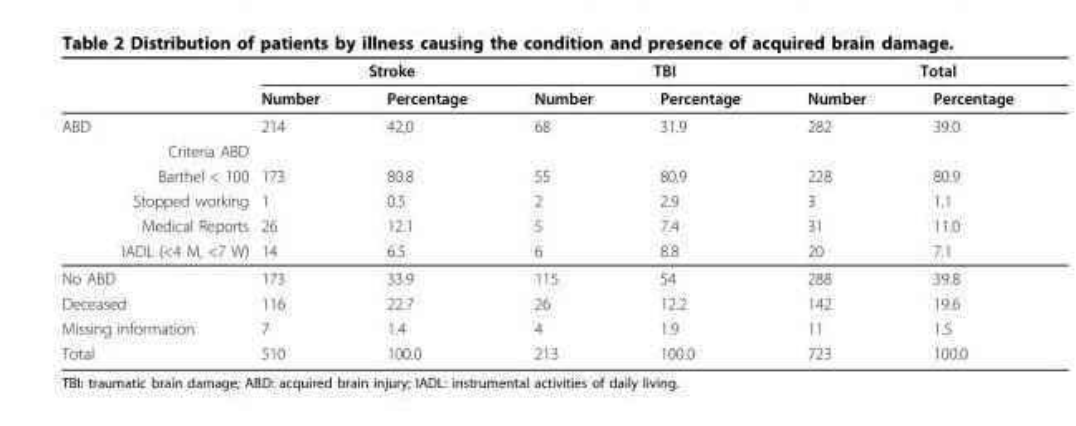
<table><thead><tr><td rowspan="2"></td><td colspan="2">Stroke</td><td colspan="2">TBI</td><td colspan="2">Total</td></tr><tr><td>Number</td><td>Percentage</td><td>Number</td><td>Percentage</td><td>Number</td><td>Percentage</td></tr></thead><tbody><tr><td>ABD</td><td>214</td><td>42,0</td><td>68</td><td>31.9</td><td>282</td><td>39.0</td></tr><tr><td colspan="7">Criteria ABD</td></tr><tr><td>Barthel &lt; 100</td><td>173</td><td>80.8</td><td>55</td><td>80.9</td><td>228</td><td>80.9</td></tr><tr><td>Stopped working</td><td>1</td><td>0.5</td><td>2</td><td>2.9</td><td>3</td><td>1.1</td></tr><tr><td>Medical Reports</td><td>26</td><td>12.1</td><td>5</td><td>7.4</td><td>31</td><td>11.0</td></tr><tr><td>IADL (&lt;4 M, &lt;7 W)</td><td>14</td><td>6.5</td><td>6</td><td>8.8</td><td>20</td><td>7.1</td></tr><tr><td>No ABD</td><td>173</td><td>33.9</td><td>115</td><td>54</td><td>288</td><td>39.8</td></tr><tr><td>Deceased</td><td>116</td><td>22.7</td><td>26</td><td>12.2</td><td>142</td><td>19.6</td></tr><tr><td>Missing information</td><td>7</td><td>1.4</td><td>4</td><td>1.9</td><td>11</td><td>1.5</td></tr><tr><td>Total</td><td>510</td><td>100.0</td><td>213</td><td>100.0</td><td>723</td><td>100.0</td></tr></tbody></table>